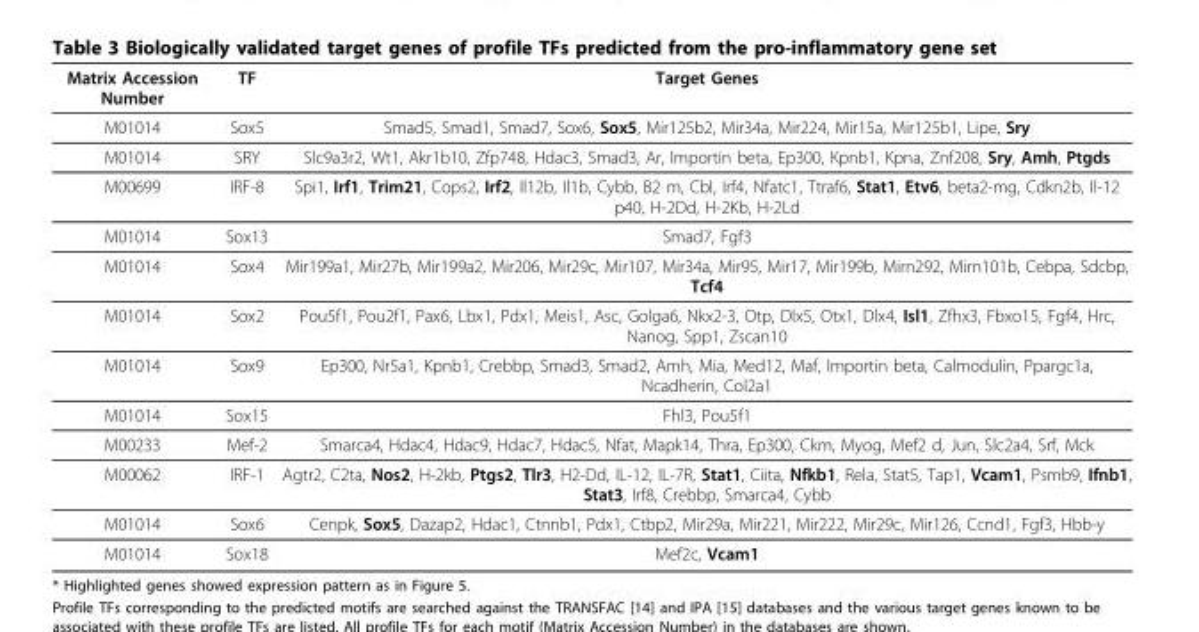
<table><thead><tr><td>Matrix Accession Number</td><td>TF</td><td>Target Genes</td></tr></thead><tbody><tr><td>M01014</td><td>Sox5</td><td>Smad5, Smad1, Smad7, Sox6, Sox5, Mir125b2, Mir34a, Mir224, Mir15a, Mir125b1, Lipe, Sry</td></tr><tr><td>M01014</td><td>SRY</td><td>Slc9a3r2, Wt1, Akr1b10, Zfp748, Hdac3, Smad3, Ar, Importin beta, Ep300, Kpnb1, Kpna, Znf208, Sry, Amh, Ptgds</td></tr><tr><td>M00699</td><td>IRF-8</td><td>Spi1, Irf1, Trim21, Cops2, Irf2, Il12b, Il1b, Cybb, B2 m, Cbl, Irf4, Nfatc1, Ttraf6, Stat1, Etv6, beta2-mg, Cdkn2b, Il-12 p40, H-2Dd, H-2Kb, H-2Ld</td></tr><tr><td>M01014</td><td>Sox13</td><td>Smad7, Fgf3</td></tr><tr><td>M01014</td><td>Sox4</td><td>Mir199a1, Mir27b, Mir199a2, Mir206, Mir29c, Mir107, Mir34a, Mir95, Mir17, Mir199b, Mirn292, Mirn101b, Cebpa, Sdcbp, Tcf4</td></tr><tr><td>M01014</td><td>Sox2</td><td>Pou5f1, Pou2f1, Pax6, Lbx1, Pdx1, Meis1, Asc, Golga6, Nkx2-3, Otp, Dlx5, Otx1, Dlx4, Isl1, Zfhx3, Fbxo15, Fgf4, Hrc, Nanog, Spp1, Zscan10</td></tr><tr><td>M01014</td><td>Sox9</td><td>Ep300, Nr5a1, Kpnb1, Crebbp, Smad3, Smad2, Amh, Mia, Med12, Maf, Importin beta, Calmodulin, Ppargc1a, Ncadherin, Col2a1</td></tr><tr><td>M01014</td><td>Sox15</td><td>Fhl3, Pou5f1</td></tr><tr><td>M00233</td><td>Mef-2</td><td>Smarca4, Hdac4, Hdac9, Hdac7, Hdac5, Nfat, Mapk14, Thra, Ep300, Ckm, Myog, Mef2 d, Jun, Slc2a4, Srf, Mck</td></tr><tr><td>M00062</td><td>IRF-1</td><td>Agtr2, C2ta, Nos2, H-2kb, Ptgs2, Tlr3, H2-Dd, IL-12, IL-7R, Stat1, Ciita, Nfkb1, Rela, Stat5, Tap1, Vcam1, Psmb9, Ifnb1, Stat3, Irf8, Crebbp, Smarca4, Cybb</td></tr><tr><td>M01014</td><td>Sox6</td><td>Cenpk, Sox5, Dazap2, Hdac1, Ctnnb1, Pdx1, Ctbp2, Mir29a, Mir221, Mir222, Mir29c, Mir126, Ccnd1, Fgf3, Hbb-y</td></tr><tr><td>M01014</td><td>Sox18</td><td>Mef2c, Vcam1</td></tr></tbody></table>